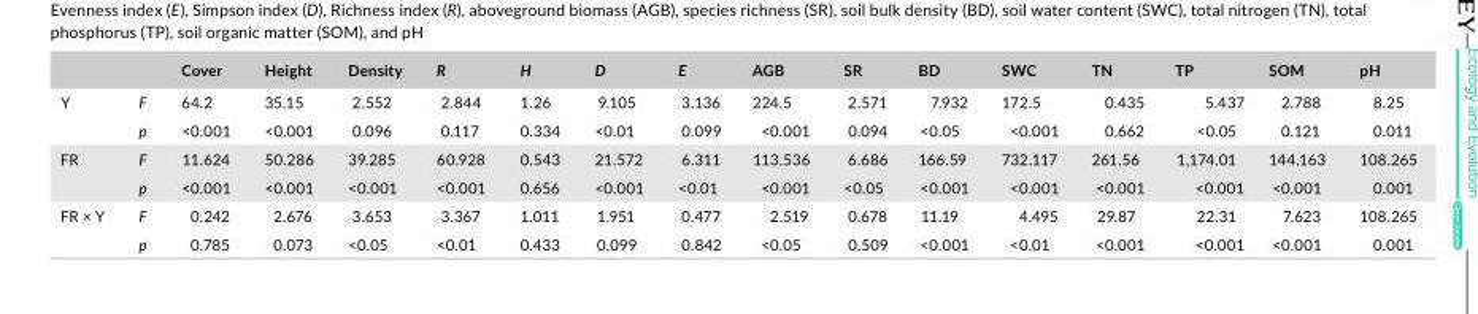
<table><thead><tr><td></td><td></td><td>Cover</td><td>Height</td><td>Density</td><td>R</td><td>H</td><td>D</td><td>E</td><td>AGB</td><td>SR</td><td>BD</td><td>SWC</td><td>TN</td><td>TP</td><td>SOM</td><td>pH</td></tr></thead><tbody><tr><td rowspan="2">Y</td><td>F</td><td>64.2</td><td>35.15</td><td>2.552</td><td>2.844</td><td>1.26</td><td>9.105</td><td>3.136</td><td>224.5</td><td>2.571</td><td>7.932</td><td>172.5</td><td>0.435</td><td>5.437</td><td>2.788</td><td>8.25</td></tr><tr><td>p</td><td>&lt;0.001</td><td>&lt;0.001</td><td>0.096</td><td>0.117</td><td>0.334</td><td>&lt;0.01</td><td>0.099</td><td>&lt;0.001</td><td>0.094</td><td>&lt;0.05</td><td>&lt;0.001</td><td>0.662</td><td>&lt;0.05</td><td>0.121</td><td>0.011</td></tr><tr><td rowspan="2">FR</td><td>F</td><td>11.624</td><td>50.286</td><td>39.285</td><td>60.928</td><td>0.543</td><td>21.572</td><td>6.311</td><td>113.536</td><td>6.686</td><td>166.59</td><td>732.117</td><td>261.56</td><td>1,174.01</td><td>144.163</td><td>108.265</td></tr><tr><td>p</td><td>&lt;0.001</td><td>&lt;0.001</td><td>&lt;0.001</td><td>&lt;0.001</td><td>0.656</td><td>&lt;0.001</td><td>&lt;0.01</td><td>&lt;0.001</td><td>&lt;0.05</td><td>&lt;0.001</td><td>&lt;0.001</td><td>&lt;0.001</td><td>&lt;0.001</td><td>&lt;0.001</td><td>0.001</td></tr><tr><td rowspan="2">FR × Y</td><td>F</td><td>0.242</td><td>2.676</td><td>3.653</td><td>3.367</td><td>1.011</td><td>1.951</td><td>0.477</td><td>2.519</td><td>0.678</td><td>11.19</td><td>4.495</td><td>29.87</td><td>22.31</td><td>7.623</td><td>108.265</td></tr><tr><td>p</td><td>0.785</td><td>0.073</td><td>&lt;0.05</td><td>&lt;0.01</td><td>0.433</td><td>0.099</td><td>0.842</td><td>&lt;0.05</td><td>0.509</td><td>&lt;0.001</td><td>&lt;0.01</td><td>&lt;0.001</td><td>&lt;0.001</td><td>&lt;0.001</td><td>0.001</td></tr></tbody></table>